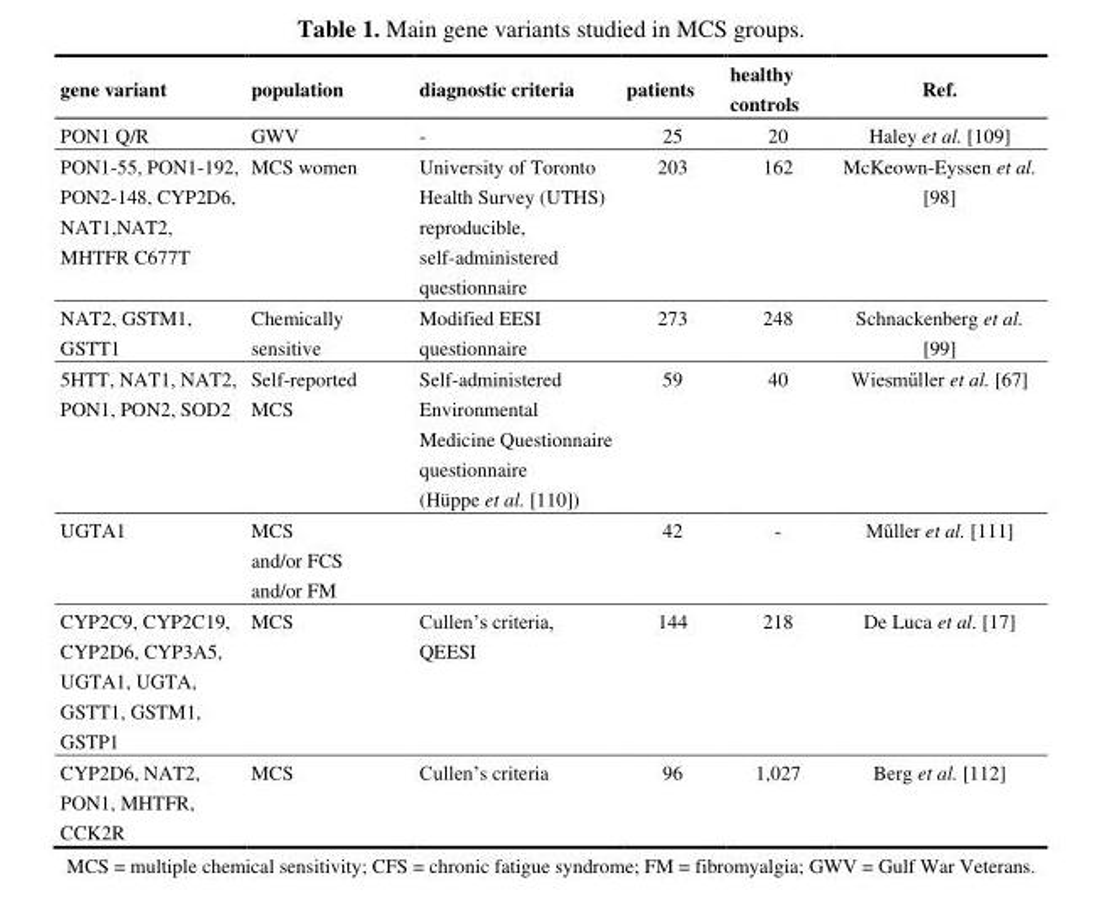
<table><thead><tr><td>gene variant</td><td>population</td><td>diagnostic criteria</td><td>patients</td><td>healthy controls</td><td>Ref.</td></tr></thead><tbody><tr><td>PON1 Q/R</td><td>GWV</td><td>-</td><td>25</td><td>20</td><td>Haley et al. [109]</td></tr><tr><td>PON1-55, PON1-192, PON2-148, CYP2D6, NAT1,NAT2, MHTFR C677T</td><td>MCS women</td><td>University of Toronto Health Survey (UTHS) reproducible, self-administered questionnaire</td><td>203</td><td>162</td><td>McKeown-Eyssen et al. [98]</td></tr><tr><td>NAT2, GSTM1, GSTT1</td><td>Chemically sensitive</td><td>Modified EESI questionnaire</td><td>273</td><td>248</td><td>Schnackenberg et al. [99]</td></tr><tr><td>5HTT, NAT1, NAT2, PON1, PON2, SOD2</td><td>Self-reported MCS</td><td>Self-administered Environmental Medicine Questionnaire questionnaire (Hüppe et al. [110])</td><td>59</td><td>40</td><td>Wiesműller et al. [67]</td></tr><tr><td>UGTA1</td><td>MCS and/or FCS and/or FM</td><td></td><td>42</td><td>-</td><td>Műller et al. [111]</td></tr><tr><td>CYP2C9, CYP2C19, CYP2D6, CYP3A5, UGTA1, UGTA, GSTT1, GSTM1, GSTP1</td><td>MCS</td><td>Cullen’s criteria, QEESI</td><td>144</td><td>218</td><td>De Luca et al. [17]</td></tr><tr><td>CYP2D6, NAT2, PON1, MHTFR, CCK2R</td><td>MCS</td><td>Cullen’s criteria</td><td>96</td><td>1,027</td><td>Berg et al. [112]</td></tr></tbody></table>